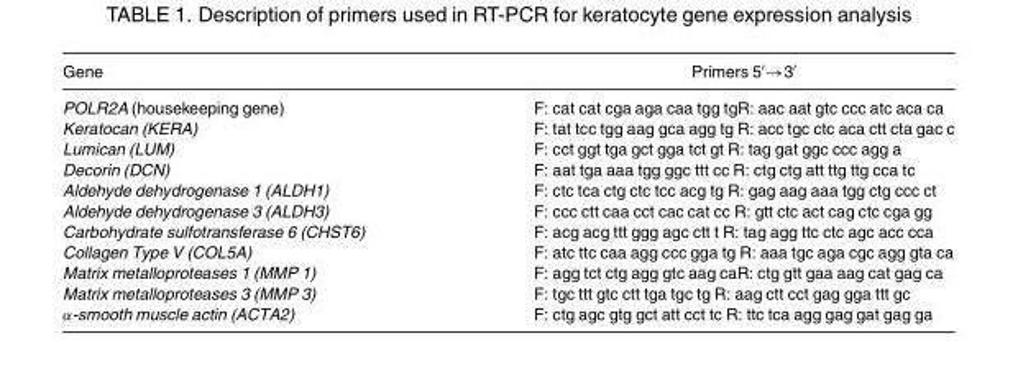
<table><thead><tr><td>Gene</td><td>Primers 5′→3′</td></tr></thead><tbody><tr><td>POLR2A (housekeeping gene)</td><td>F: cat cat cga aga caa tgg tgR: aac aat gtc ccc atc aca ca</td></tr><tr><td>Keratocan (KERA)</td><td>F: tat tcc tgg aag gca agg tg R: acc tgc ctc aca ctt cta gac c</td></tr><tr><td>Lumican (LUM)</td><td>F: cct ggt tga gct gga tct gt R: tag gat ggc ccc agg a</td></tr><tr><td>Decorin (DCN)</td><td>F: aat tga aaa tgg ggc ttt cc R: ctg ctg att ttg ttg cca tc</td></tr><tr><td>Aldehyde dehydrogenase 1 (ALDH1)</td><td>F: ctc tca ctg ctc tcc acg tg R: gag aag aaa tgg ctg ccc ct</td></tr><tr><td>Aldehyde dehydrogenase 3 (ALDH3)</td><td>F: ccc ctt caa cct cac cat cc R: gtt ctc act cag ctc cga gg</td></tr><tr><td>Carbohydrate sulfotransferase 6 (CHST6)</td><td>F: acg acg ttt ggg agc ctt t R: tag agg ttc ctc agc acc cca</td></tr><tr><td>Collagen Type V (COL5A)</td><td>F: atc ttc caa agg ccc gga tg R: aaa tgc aga cgc agg gta ca</td></tr><tr><td>Matrix metalloproteases 1 (MMP 1)</td><td>F: agg tct ctg agg gtc aag caR: ctg gtt gaa aag cat gag ca</td></tr><tr><td>Matrix metalloproteases 3 (MMP 3)</td><td>F: tgc ttt gtc ctt tga tgc tg R: aag ctt cct gag gga ttt gc</td></tr><tr><td>α-smooth muscle actin (ACTA2)</td><td>F: ctg agc gtg gct att cct tc R: ttc tca agg gag gat gag ga</td></tr></tbody></table>